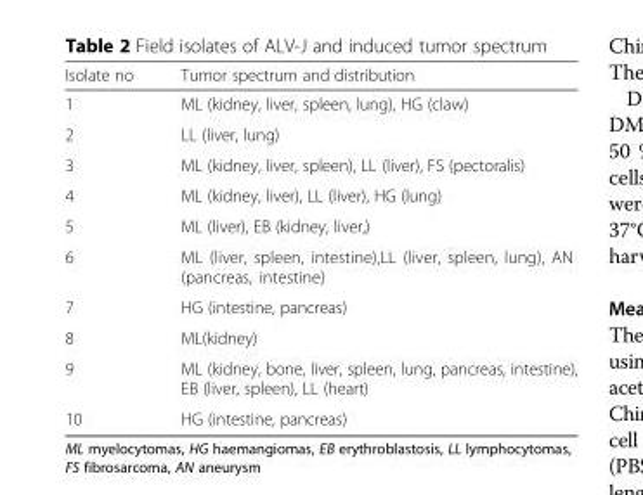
<table><thead><tr><td>Isolate no</td><td>Tumor spectrum and distribution</td></tr></thead><tbody><tr><td>1</td><td>ML (kidney, liver, spleen, lung), HG (claw)</td></tr><tr><td>2</td><td>LL (liver, lung)</td></tr><tr><td>3</td><td>ML (kidney, liver, spleen), LL (liver), FS (pectoralis)</td></tr><tr><td>4</td><td>ML (kidney, liver), LL (liver), HG (lung)</td></tr><tr><td>5</td><td>ML (liver), EB (kidney, liver,)</td></tr><tr><td>6</td><td>ML (liver, spleen, intestine),LL (liver, spleen, lung), AN (pancreas, intestine)</td></tr><tr><td>7</td><td>HG (intestine, pancreas)</td></tr><tr><td>8</td><td>ML(kidney)</td></tr><tr><td>9</td><td>ML (kidney, bone, liver, spleen, lung, pancreas, intestine), EB (liver, spleen), LL (heart)</td></tr><tr><td>10</td><td>HG (intestine, pancreas)</td></tr></tbody></table>